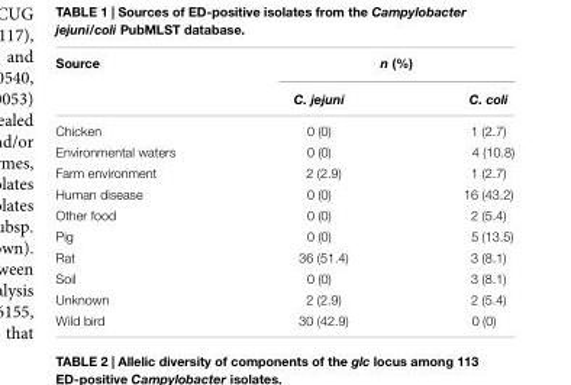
<table><thead><tr><td rowspan="2">Source</td><td colspan="2">n (%)</td></tr><tr><td>C. jejuni</td><td>C. coli</td></tr></thead><tbody><tr><td>Chicken</td><td>0 (0)</td><td>1 (2.7)</td></tr><tr><td>Environmental waters</td><td>0 (0)</td><td>4 (10.8)</td></tr><tr><td>Farm environment</td><td>2 (2.9)</td><td>1 (2.7)</td></tr><tr><td>Human disease</td><td>0 (0)</td><td>16 (43.2)</td></tr><tr><td>Other food</td><td>0 (0)</td><td>2 (5.4)</td></tr><tr><td>Pig</td><td>0 (0)</td><td>5 (13.5)</td></tr><tr><td>Rat</td><td>36 (51.4)</td><td>3 (8.1)</td></tr><tr><td>Soil</td><td>0 (0)</td><td>3 (8.1)</td></tr><tr><td>Unknown</td><td>2 (2.9)</td><td>2 (5.4)</td></tr><tr><td>Wild bird</td><td>30 (42.9)</td><td>0 (0)</td></tr></tbody></table>